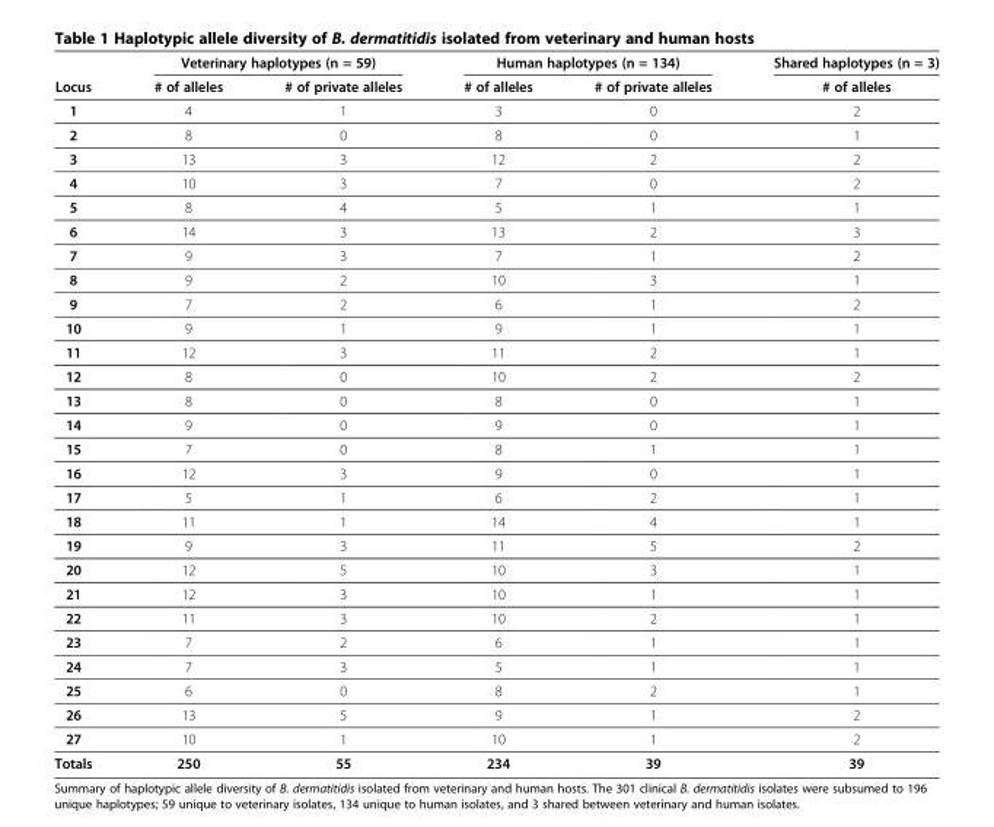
<table><thead><tr><td rowspan="2">Locus</td><td colspan="2">Veterinary haplotypes (n = 59)</td><td colspan="2">Human haplotypes (n = 134)</td><td rowspan="2">Shared haplotypes (n = 3) # of alleles</td></tr><tr><td># of alleles</td><td># of private alleles</td><td># of alleles</td><td># of private alleles</td></tr></thead><tbody><tr><td>1</td><td>4</td><td>1</td><td>3</td><td>0</td><td>2</td></tr><tr><td>2</td><td>8</td><td>0</td><td>8</td><td>0</td><td>1</td></tr><tr><td>3</td><td>13</td><td>3</td><td>12</td><td>2</td><td>2</td></tr><tr><td>4</td><td>10</td><td>3</td><td>7</td><td>0</td><td>2</td></tr><tr><td>5</td><td>8</td><td>4</td><td>5</td><td>1</td><td>1</td></tr><tr><td>6</td><td>14</td><td>3</td><td>13</td><td>2</td><td>3</td></tr><tr><td>7</td><td>9</td><td>3</td><td>7</td><td>1</td><td>2</td></tr><tr><td>8</td><td>9</td><td>2</td><td>10</td><td>3</td><td>1</td></tr><tr><td>9</td><td>7</td><td>2</td><td>6</td><td>1</td><td>2</td></tr><tr><td>10</td><td>9</td><td>1</td><td>9</td><td>1</td><td>1</td></tr><tr><td>11</td><td>12</td><td>3</td><td>11</td><td>2</td><td>1</td></tr><tr><td>12</td><td>8</td><td>0</td><td>10</td><td>2</td><td>2</td></tr><tr><td>13</td><td>8</td><td>0</td><td>8</td><td>0</td><td>1</td></tr><tr><td>14</td><td>9</td><td>0</td><td>9</td><td>0</td><td>1</td></tr><tr><td>15</td><td>7</td><td>0</td><td>8</td><td>1</td><td>1</td></tr><tr><td>16</td><td>12</td><td>3</td><td>9</td><td>0</td><td>1</td></tr><tr><td>17</td><td>5</td><td>1</td><td>6</td><td>2</td><td>1</td></tr><tr><td>18</td><td>11</td><td>1</td><td>14</td><td>4</td><td>1</td></tr><tr><td>19</td><td>9</td><td>3</td><td>11</td><td>5</td><td>2</td></tr><tr><td>20</td><td>12</td><td>5</td><td>10</td><td>3</td><td>1</td></tr><tr><td>21</td><td>12</td><td>3</td><td>10</td><td>1</td><td>1</td></tr><tr><td>22</td><td>11</td><td>3</td><td>10</td><td>2</td><td>1</td></tr><tr><td>23</td><td>7</td><td>2</td><td>6</td><td>1</td><td>1</td></tr><tr><td>24</td><td>7</td><td>3</td><td>5</td><td>1</td><td>1</td></tr><tr><td>25</td><td>6</td><td>0</td><td>8</td><td>2</td><td>1</td></tr><tr><td>26</td><td>13</td><td>5</td><td>9</td><td>1</td><td>2</td></tr><tr><td>27</td><td>10</td><td>1</td><td>10</td><td>1</td><td>2</td></tr><tr><td>Totals</td><td>250</td><td>55</td><td>234</td><td>39</td><td>39</td></tr></tbody></table>